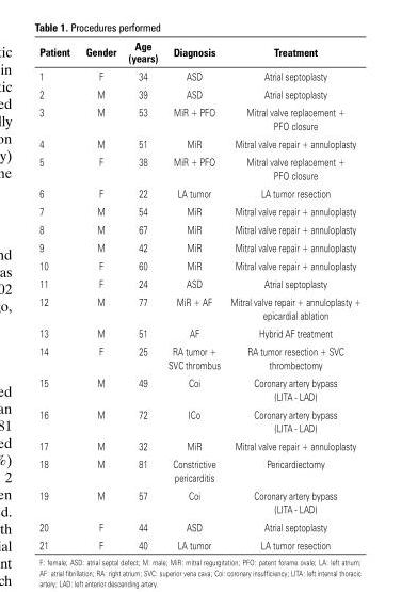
<table><thead><tr><td>Patient</td><td>Gender</td><td>Age (years)</td><td>Diagnosis</td><td>Treatment</td></tr></thead><tbody><tr><td>1</td><td>F</td><td>34</td><td>ASD</td><td>Atrial septoplasty</td></tr><tr><td>2</td><td>M</td><td>39</td><td>ASD</td><td>Atrial septoplasty</td></tr><tr><td>3</td><td>M</td><td>53</td><td>MiR + PFO</td><td>Mitral valve replacement + PFO closure</td></tr><tr><td>4</td><td>M</td><td>51</td><td>MiR</td><td>Mitral valve repair + annuloplasty</td></tr><tr><td>5</td><td>F</td><td>38</td><td>MiR + PFO</td><td>Mitral valve replacement + PFO closure</td></tr><tr><td>6</td><td>F</td><td>22</td><td>LA tumor</td><td>LA tumor resection</td></tr><tr><td>7</td><td>M</td><td>54</td><td>MiR</td><td>Mitral valve repair + annuloplasty</td></tr><tr><td>8</td><td>M</td><td>67</td><td>MiR</td><td>Mitral valve repair + annuloplasty</td></tr><tr><td>9</td><td>M</td><td>42</td><td>MiR</td><td>Mitral valve repair + annuloplasty</td></tr><tr><td>10</td><td>F</td><td>60</td><td>MiR</td><td>Mitral valve repair + annuloplasty</td></tr><tr><td>11</td><td>F</td><td>24</td><td>ASD</td><td>Atrial septoplasty</td></tr><tr><td>12</td><td>M</td><td>77</td><td>MiR + AF</td><td>Mitral valve repair + annuloplasty + epicardial ablation</td></tr><tr><td>13</td><td>M</td><td>51</td><td>AF</td><td>Hybrid AF treatment</td></tr><tr><td>14</td><td>F</td><td>25</td><td>RA tumor + SVC thrombus</td><td>RA tumor resection + SVC thrombectomy</td></tr><tr><td>15</td><td>M</td><td>49</td><td>Coi</td><td>Coronary artery bypass (LITA - LAD)</td></tr><tr><td>16</td><td>M</td><td>72</td><td>ICo</td><td>Coronary artery bypass (LITA - LAD)</td></tr><tr><td>17</td><td>M</td><td>32</td><td>MiR</td><td>Mitral valve repair + annuloplasty</td></tr><tr><td>18</td><td>M</td><td>81</td><td>Constrictive pericarditis</td><td>Pericardiectomy</td></tr><tr><td>19</td><td>M</td><td>57</td><td>Coi</td><td>Coronary artery bypass (LITA - LAD)</td></tr><tr><td>20</td><td>F</td><td>44</td><td>ASD</td><td>Atrial septoplasty</td></tr><tr><td>21</td><td>F</td><td>40</td><td>LA tumor</td><td>LA tumor resection</td></tr></tbody></table>